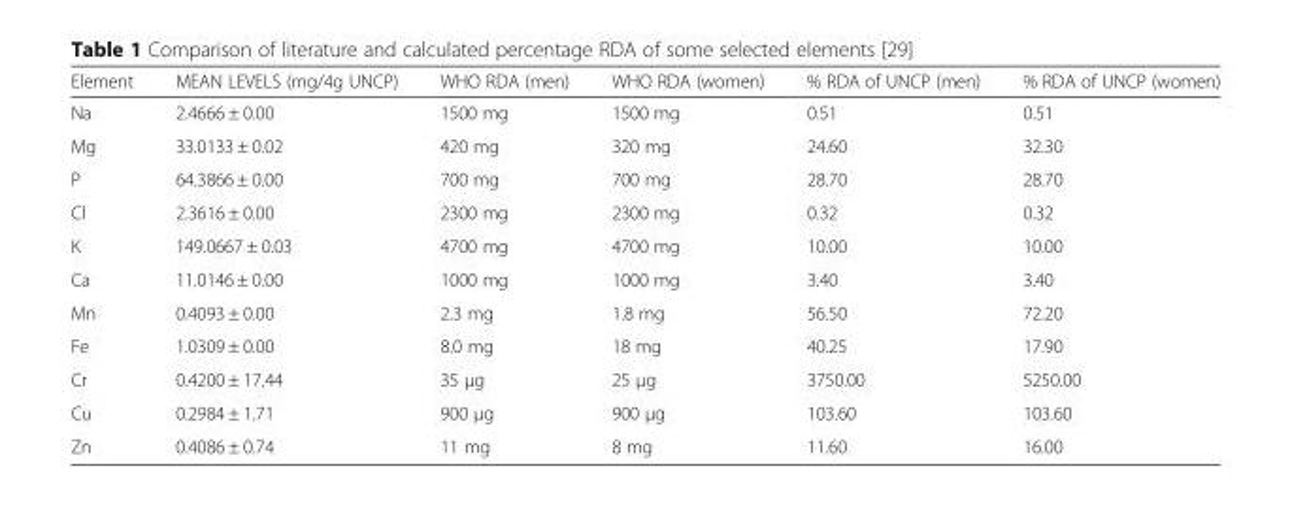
<table><thead><tr><td>Element</td><td>MEAN LEVELS (mg/4g UNCP)</td><td>WHO RDA (men)</td><td>WHO RDA (women)</td><td>% RDA of UNCP (men)</td><td>% RDA of UNCP (women)</td></tr></thead><tbody><tr><td>Na</td><td>2.4666 ± 0.00</td><td>1500 mg</td><td>1500 mg</td><td>0.51</td><td>0.51</td></tr><tr><td>Mg</td><td>33.0133 ± 0.02</td><td>420 mg</td><td>320 mg</td><td>24.60</td><td>32.30</td></tr><tr><td>P</td><td>64.3866 ± 0.00</td><td>700 mg</td><td>700 mg</td><td>28.70</td><td>28.70</td></tr><tr><td>Cl</td><td>2.3616 ± 0.00</td><td>2300 mg</td><td>2300 mg</td><td>0.32</td><td>0.32</td></tr><tr><td>K</td><td>149.0667 ± 0.03</td><td>4700 mg</td><td>4700 mg</td><td>10.00</td><td>10.00</td></tr><tr><td>Ca</td><td>11.0146 ± 0.00</td><td>1000 mg</td><td>1000 mg</td><td>3.40</td><td>3.40</td></tr><tr><td>Mn</td><td>0.4093 ± 0.00</td><td>2.3 mg</td><td>1.8 mg</td><td>56.50</td><td>72.20</td></tr><tr><td>Fe</td><td>1.0309 ± 0.00</td><td>8.0 mg</td><td>18 mg</td><td>40.25</td><td>17.90</td></tr><tr><td>Cr</td><td>0.4200 ± 17.44</td><td>35 μg</td><td>25 μg</td><td>3750.00</td><td>5250.00</td></tr><tr><td>Cu</td><td>0.2984 ± 1.71</td><td>900 μg</td><td>900 μg</td><td>103.60</td><td>103.60</td></tr><tr><td>Zn</td><td>0.4086 ± 0.74</td><td>11 mg</td><td>8 mg</td><td>11.60</td><td>16.00</td></tr></tbody></table>